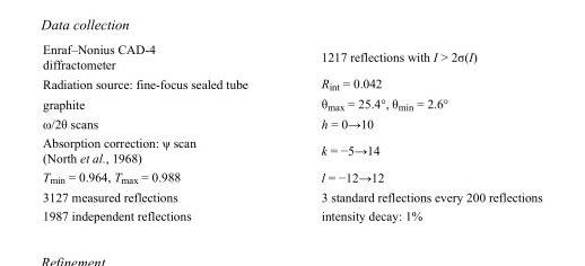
<table><tbody><tr><td>Enraf–Nonius CAD-4 diffractometer</td><td>1217 reflections with I &gt; 2σ(I)</td></tr><tr><td>Radiation source: fine-focus sealed tube</td><td>R<sub>int</sub> = 0.042</td></tr><tr><td>graphite</td><td>θ<sub>max</sub> = 25.4°, θ<sub>min</sub> = 2.6°</td></tr><tr><td>ω/2θ scans</td><td>h = 0→10</td></tr><tr><td>Absorption correction: ψ scan (North et al., 1968)</td><td>k = −5→14</td></tr><tr><td>T<sub>min</sub> = 0.964, T<sub>max</sub> = 0.988</td><td>l = −12→12</td></tr><tr><td>3127 measured reflections</td><td>3 standard reflections every 200 reflections</td></tr><tr><td>1987 independent reflections</td><td>intensity decay: 1%</td></tr></tbody></table>